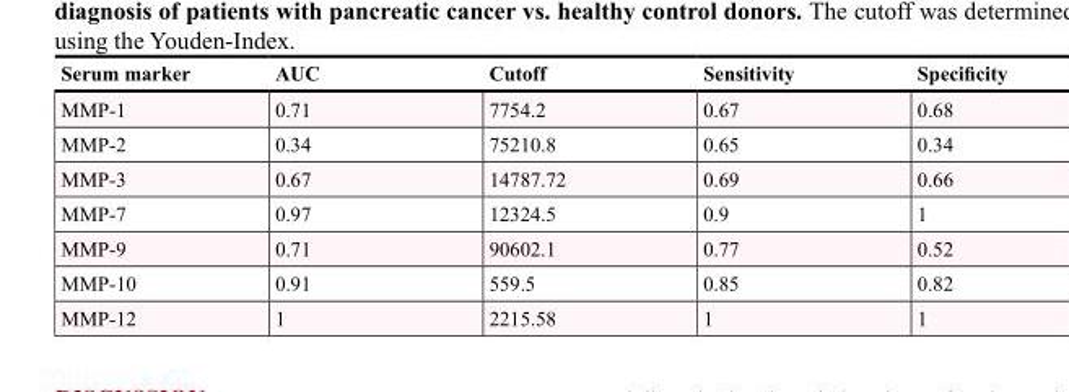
<table><thead><tr><td>Serum marker</td><td>AUC</td><td>Cutoff</td><td>Sensitivity</td><td>Specificity</td></tr></thead><tbody><tr><td>MMP-1</td><td>0.71</td><td>7754.2</td><td>0.67</td><td>0.68</td></tr><tr><td>MMP-2</td><td>0.34</td><td>75210.8</td><td>0.65</td><td>0.34</td></tr><tr><td>MMP-3</td><td>0.67</td><td>14787.72</td><td>0.69</td><td>0.66</td></tr><tr><td>MMP-7</td><td>0.97</td><td>12324.5</td><td>0.9</td><td>1</td></tr><tr><td>MMP-9</td><td>0.71</td><td>90602.1</td><td>0.77</td><td>0.52</td></tr><tr><td>MMP-10</td><td>0.91</td><td>559.5</td><td>0.85</td><td>0.82</td></tr><tr><td>MMP-12</td><td>1</td><td>2215.58</td><td>1</td><td>1</td></tr></tbody></table>